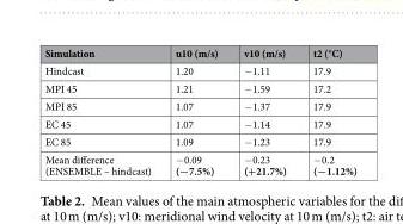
<table><thead><tr><td>Simulation</td><td>u10 (m/s)</td><td>v10 (m/s)</td><td>t2 (°C)</td></tr></thead><tbody><tr><td>Hindcast</td><td>1.20</td><td>−1.11</td><td>17.9</td></tr><tr><td>MPI 45</td><td>1.21</td><td>−1.59</td><td>17.2</td></tr><tr><td>MPI 85</td><td>1.07</td><td>−1.37</td><td>17.9</td></tr><tr><td>EC 45</td><td>1.07</td><td>−1.14</td><td>17.9</td></tr><tr><td>EC 85</td><td>1.09</td><td>−1.23</td><td>17.9</td></tr><tr><td>Mean difference (ENSEMBLE – hindcast)</td><td>−0.09 (−7.5%)</td><td>−0.23 (+21.7%)</td><td>−0.2 (−1.12%)</td></tr></tbody></table>